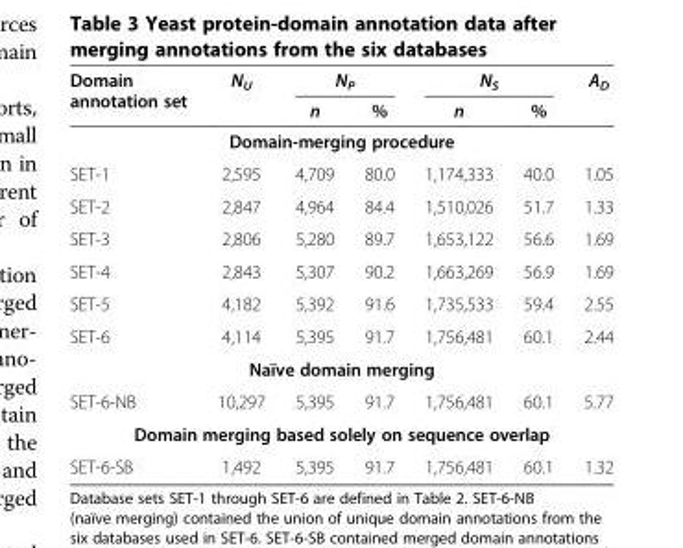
<table><thead><tr><td rowspan="2">Domain annotation set</td><td rowspan="2">N<sub>U</sub></td><td colspan="2">N<sub>P</sub></td><td colspan="2">N<sub>S</sub></td><td rowspan="2">A<sub>D</sub></td></tr><tr><td>n</td><td>%</td><td>n</td><td>%</td></tr></thead><tbody><tr><td colspan="7">Domain-merging procedure</td></tr><tr><td>SET-1</td><td>2,595</td><td>4,709</td><td>80.0</td><td>1,174,333</td><td>40.0</td><td>1.05</td></tr><tr><td>SET-2</td><td>2,847</td><td>4,964</td><td>84.4</td><td>1,510,026</td><td>51.7</td><td>1.33</td></tr><tr><td>SET-3</td><td>2,806</td><td>5,280</td><td>89.7</td><td>1,653,122</td><td>56.6</td><td>1.69</td></tr><tr><td>SET-4</td><td>2,843</td><td>5,307</td><td>90.2</td><td>1,663,269</td><td>56.9</td><td>1.69</td></tr><tr><td>SET-5</td><td>4,182</td><td>5,392</td><td>91.6</td><td>1,735,533</td><td>59.4</td><td>2.55</td></tr><tr><td>SET-6</td><td>4,114</td><td>5,395</td><td>91.7</td><td>1,756,481</td><td>60.1</td><td>2.44</td></tr><tr><td colspan="7">Naïve domain merging</td></tr><tr><td>SET-6-NB</td><td>10,297</td><td>5,395</td><td>91.7</td><td>1,756,481</td><td>60.1</td><td>5.77</td></tr><tr><td colspan="7">Domain merging based solely on sequence overlap</td></tr><tr><td>SET-6-SB</td><td>1,492</td><td>5,395</td><td>91.7</td><td>1,756,481</td><td>60.1</td><td>1.32</td></tr></tbody></table>